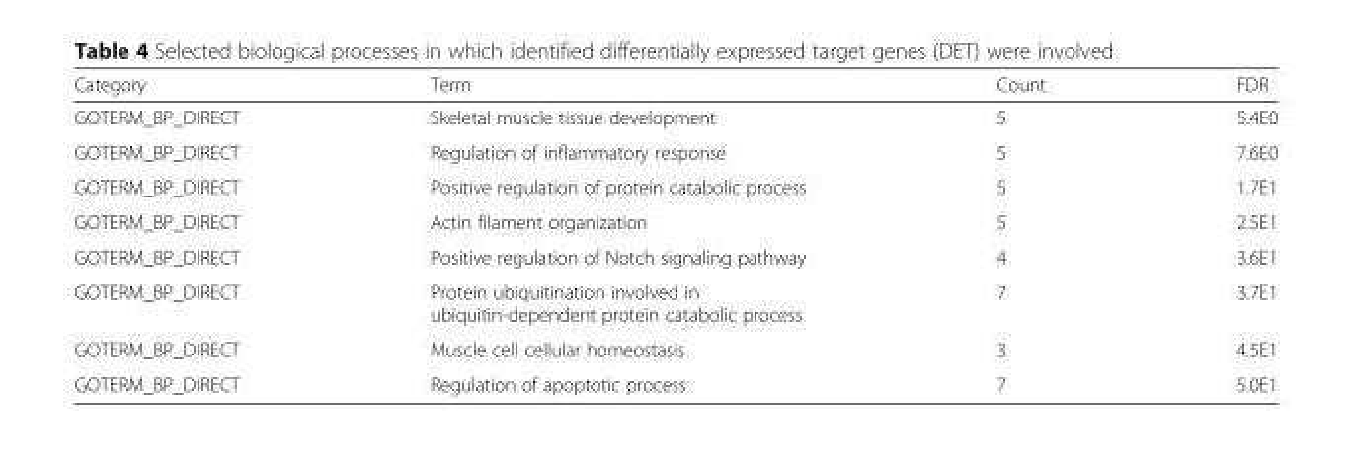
<table><thead><tr><td>Category</td><td>Term</td><td>Count</td><td>FDR</td></tr></thead><tbody><tr><td>GOTERM_BP_DIRECT</td><td>Skeletal muscle tissue development</td><td>5</td><td>5.4E0</td></tr><tr><td>GOTERM_BP_DIRECT</td><td>Regulation of inflammatory response</td><td>5</td><td>7.6E0</td></tr><tr><td>GOTERM_BP_DIRECT</td><td>Positive regulation of protein catabolic process</td><td>5</td><td>1.7E1</td></tr><tr><td>GOTERM_BP_DIRECT</td><td>Actin filament organization</td><td>5</td><td>2.5E1</td></tr><tr><td>GOTERM_BP_DIRECT</td><td>Positive regulation of Notch signaling pathway</td><td>4</td><td>3.6E1</td></tr><tr><td>GOTERM_BP_DIRECT</td><td>Protein ubiquitination involved in ubiquitin-dependent protein catabolic process</td><td>7</td><td>3.7E1</td></tr><tr><td>GOTERM_BP_DIRECT</td><td>Muscle cell cellular homeostasis</td><td>3</td><td>4.5E1</td></tr><tr><td>GOTERM_BP_DIRECT</td><td>Regulation of apoptotic process</td><td>7</td><td>5.0E1</td></tr></tbody></table>